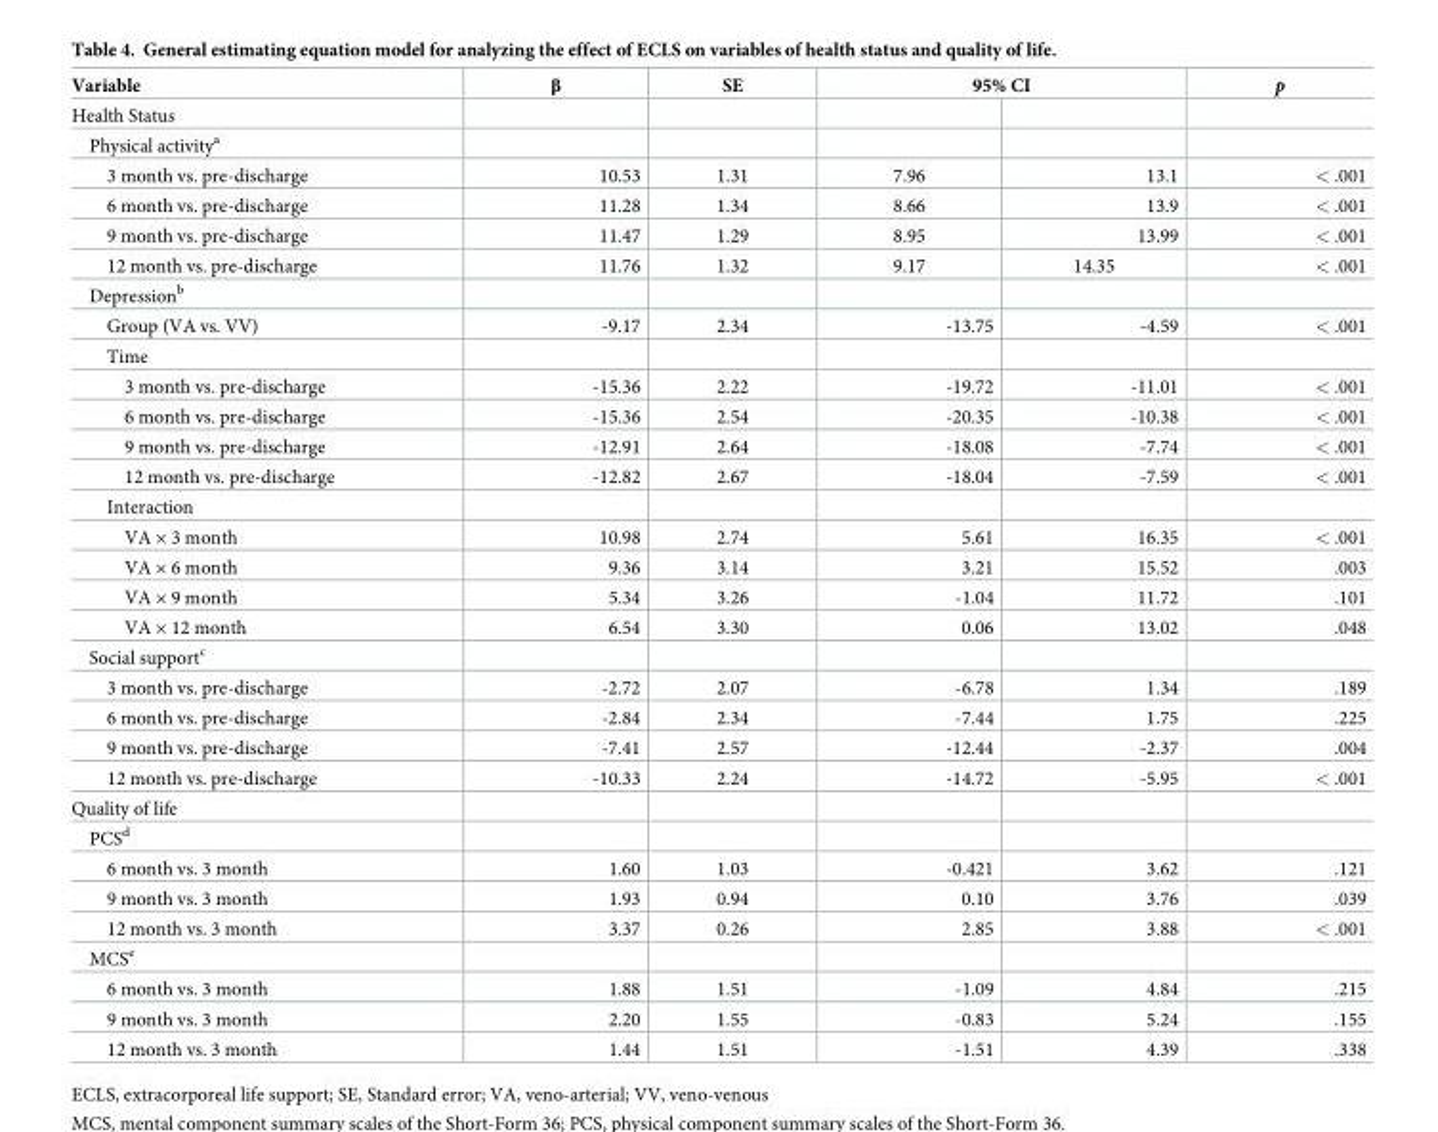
<table><thead><tr><td rowspan="2">Variable Health Status</td><td rowspan="2">β</td><td rowspan="2">SE</td><td colspan="2">95% CI</td><td rowspan="2">p</td></tr><tr><td></td><td></td></tr></thead><tbody><tr><td colspan="6">Physical activity<sup>a</sup></td></tr><tr><td>3 month vs. pre-discharge</td><td>10.53</td><td>1.31</td><td>7.96</td><td>13.1</td><td>&lt; .001</td></tr><tr><td>6 month vs. pre-discharge</td><td>11.28</td><td>1.34</td><td>8.66</td><td>13.9</td><td>&lt; .001</td></tr><tr><td>9 month vs. pre-discharge</td><td>11.47</td><td>1.29</td><td>8.95</td><td>13.99</td><td>&lt; .001</td></tr><tr><td>12 month vs. pre-discharge</td><td>11.76</td><td>1.32</td><td>9.17</td><td>14.35</td><td>&lt; .001</td></tr><tr><td colspan="6">Depression<sup>b</sup></td></tr><tr><td>Group (VA vs. VV)</td><td>-9.17</td><td>2.34</td><td>-13.75</td><td>-4.59</td><td>&lt; .001</td></tr><tr><td colspan="6">Time</td></tr><tr><td>3 month vs. pre-discharge</td><td>-15.36</td><td>2.22</td><td>-19.72</td><td>-11.01</td><td>&lt; .001</td></tr><tr><td>6 month vs. pre-discharge</td><td>-15.36</td><td>2.54</td><td>-20.35</td><td>-10.38</td><td>&lt; .001</td></tr><tr><td>9 month vs. pre-discharge</td><td>-12.91</td><td>2.64</td><td>-18.08</td><td>-7.74</td><td>&lt; .001</td></tr><tr><td>12 month vs. pre-discharge</td><td>-12.82</td><td>2.67</td><td>-18.04</td><td>-7.59</td><td>&lt; .001</td></tr><tr><td colspan="6">Interaction</td></tr><tr><td>VA × 3 month</td><td>10.98</td><td>2.74</td><td>5.61</td><td>16.35</td><td>&lt; .001</td></tr><tr><td>VA × 6 month</td><td>9.36</td><td>3.14</td><td>3.21</td><td>15.52</td><td>.003</td></tr><tr><td>VA × 9 month</td><td>5.34</td><td>3.26</td><td>-1.04</td><td>11.72</td><td>.101</td></tr><tr><td>VA × 12 month</td><td>6.54</td><td>3.30</td><td>0.06</td><td>13.02</td><td>.048</td></tr><tr><td colspan="6">Social support<sup>c</sup></td></tr><tr><td>3 month vs. pre-discharge</td><td>-2.72</td><td>2.07</td><td>-6.78</td><td>1.34</td><td>.189</td></tr><tr><td>6 month vs. pre-discharge</td><td>-2.84</td><td>2.34</td><td>-7.44</td><td>1.75</td><td>.225</td></tr><tr><td>9 month vs. pre-discharge</td><td>-7.41</td><td>2.57</td><td>-12.44</td><td>-2.37</td><td>.004</td></tr><tr><td>12 month vs. pre-discharge</td><td>-10.33</td><td>2.24</td><td>-14.72</td><td>-5.95</td><td>&lt; .001</td></tr><tr><td colspan="6">Quality of life</td></tr><tr><td colspan="6">PCS<sup>d</sup></td></tr><tr><td>6 month vs. 3 month</td><td>1.60</td><td>1.03</td><td>-0.421</td><td>3.62</td><td>.121</td></tr><tr><td>9 month vs. 3 month</td><td>1.93</td><td>0.94</td><td>0.10</td><td>3.76</td><td>.039</td></tr><tr><td>12 month vs. 3 month</td><td>3.37</td><td>0.26</td><td>2.85</td><td>3.88</td><td>&lt; .001</td></tr><tr><td colspan="6">MCS<sup>e</sup></td></tr><tr><td>6 month vs. 3 month</td><td>1.88</td><td>1.51</td><td>-1.09</td><td>4.84</td><td>.215</td></tr><tr><td>9 month vs. 3 month</td><td>2.20</td><td>1.55</td><td>-0.83</td><td>5.24</td><td>.155</td></tr><tr><td>12 month vs. 3 month</td><td>1.44</td><td>1.51</td><td>-1.51</td><td>4.39</td><td>.338</td></tr></tbody></table>